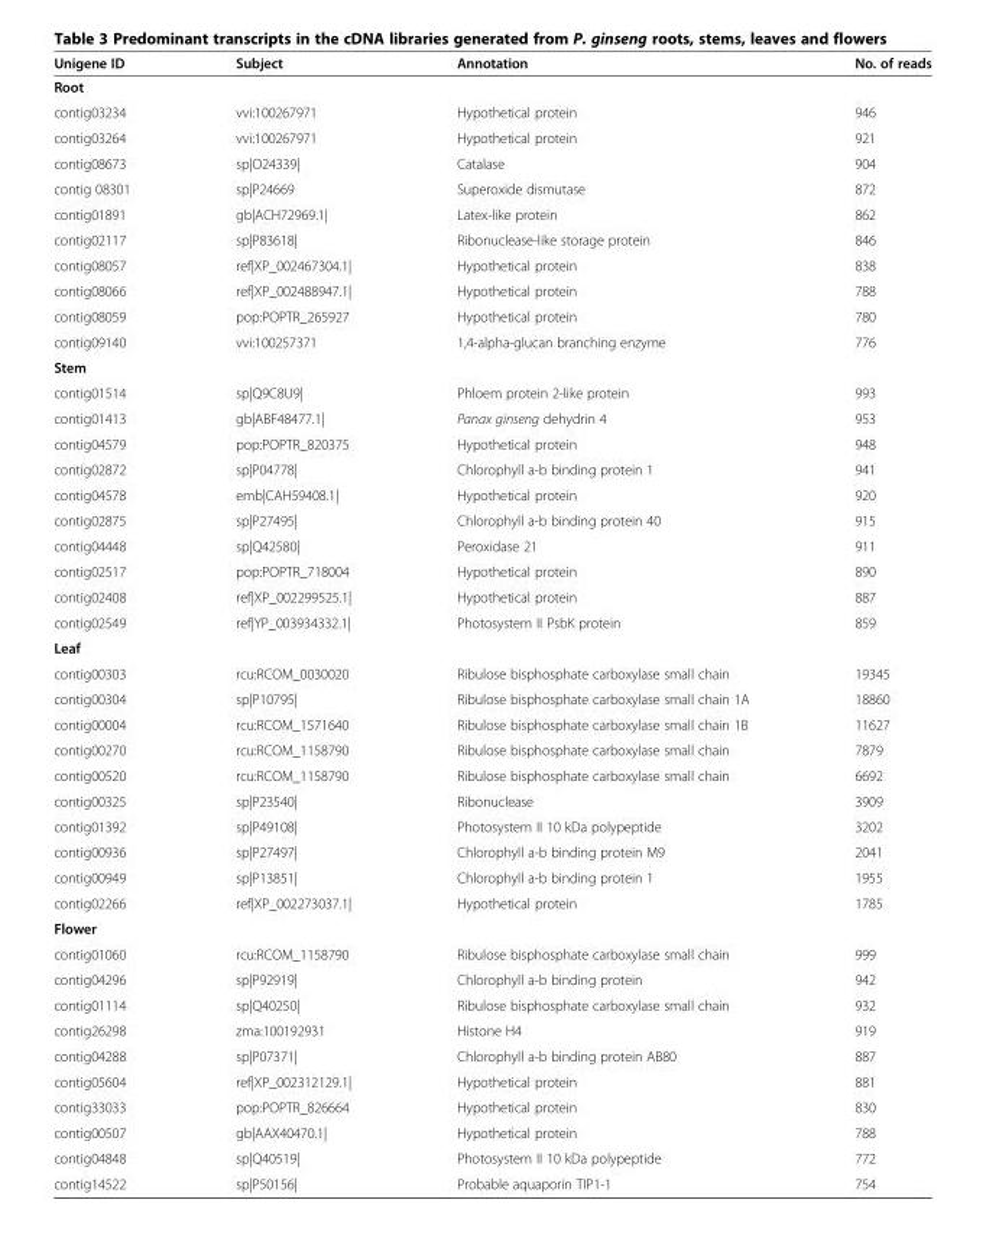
<table><thead><tr><td>Unigene ID</td><td>Subject</td><td>Annotation</td><td>No. of reads</td></tr></thead><tbody><tr><td colspan="4">Root</td></tr><tr><td>contig03234</td><td>vvi:100267971</td><td>Hypothetical protein</td><td>946</td></tr><tr><td>contig03264</td><td>vvi:100267971</td><td>Hypothetical protein</td><td>921</td></tr><tr><td>contig08673</td><td>sp|O24339|</td><td>Catalase</td><td>904</td></tr><tr><td>contig 08301</td><td>sp|P24669</td><td>Superoxide dismutase</td><td>872</td></tr><tr><td>contig01891</td><td>gb|ACH72969.1|</td><td>Latex-like protein</td><td>862</td></tr><tr><td>contig02117</td><td>sp|P83618|</td><td>Ribonuclease-like storage protein</td><td>846</td></tr><tr><td>contig08057</td><td>ref|XP_002467304.1|</td><td>Hypothetical protein</td><td>838</td></tr><tr><td>contig08066</td><td>ref|XP_002488947.1|</td><td>Hypothetical protein</td><td>788</td></tr><tr><td>contig08059</td><td>pop:POPTR_265927</td><td>Hypothetical protein</td><td>780</td></tr><tr><td>contig09140</td><td>vvi:100257371</td><td>1,4-alpha-glucan branching enzyme</td><td>776</td></tr><tr><td colspan="4">Stem</td></tr><tr><td>contig01514</td><td>sp|Q9C8U9|</td><td>Phloem protein 2-like protein</td><td>993</td></tr><tr><td>contig01413</td><td>gb|ABF48477.1|</td><td>Panax ginseng dehydrin 4</td><td>953</td></tr><tr><td>contig04579</td><td>pop:POPTR_820375</td><td>Hypothetical protein</td><td>948</td></tr><tr><td>contig02872</td><td>sp|P04778|</td><td>Chlorophyll a-b binding protein 1</td><td>941</td></tr><tr><td>contig04578</td><td>emb|CAH59408.1|</td><td>Hypothetical protein</td><td>920</td></tr><tr><td>contig02875</td><td>sp|P27495|</td><td>Chlorophyll a-b binding protein 40</td><td>915</td></tr><tr><td>contig04448</td><td>sp|Q42580|</td><td>Peroxidase 21</td><td>911</td></tr><tr><td>contig02517</td><td>pop:POPTR_718004</td><td>Hypothetical protein</td><td>890</td></tr><tr><td>contig02408</td><td>ref|XP_002299525.1|</td><td>Hypothetical protein</td><td>887</td></tr><tr><td>contig02549</td><td>ref|YP_003934332.1|</td><td>Photosystem II PsbK protein</td><td>859</td></tr><tr><td colspan="4">Leaf</td></tr><tr><td>contig00303</td><td>rcu:RCOM_0030020</td><td>Ribulose bisphosphate carboxylase small chain</td><td>19345</td></tr><tr><td>contig00304</td><td>sp|P10795|</td><td>Ribulose bisphosphate carboxylase small chain 1A</td><td>18860</td></tr><tr><td>contig00004</td><td>rcu:RCOM_1571640</td><td>Ribulose bisphosphate carboxylase small chain 1B</td><td>11627</td></tr><tr><td>contig00270</td><td>rcu:RCOM_1158790</td><td>Ribulose bisphosphate carboxylase small chain</td><td>7879</td></tr><tr><td>contig00520</td><td>rcu:RCOM_1158790</td><td>Ribulose bisphosphate carboxylase small chain</td><td>6692</td></tr><tr><td>contig00325</td><td>sp|P23540|</td><td>Ribonuclease</td><td>3909</td></tr><tr><td>contig01392</td><td>sp|P49108|</td><td>Photosystem II 10 kDa polypeptide</td><td>3202</td></tr><tr><td>contig00936</td><td>sp|P27497|</td><td>Chlorophyll a-b binding protein M9</td><td>2041</td></tr><tr><td>contig00949</td><td>sp|P13851|</td><td>Chlorophyll a-b binding protein 1</td><td>1955</td></tr><tr><td>contig02266</td><td>ref|XP_002273037.1|</td><td>Hypothetical protein</td><td>1785</td></tr><tr><td colspan="4">Flower</td></tr><tr><td>contig01060</td><td>rcu:RCOM_1158790</td><td>Ribulose bisphosphate carboxylase small chain</td><td>999</td></tr><tr><td>contig04296</td><td>sp|P92919|</td><td>Chlorophyll a-b binding protein</td><td>942</td></tr><tr><td>contig01114</td><td>sp|Q40250|</td><td>Ribulose bisphosphate carboxylase small chain</td><td>932</td></tr><tr><td>contig26298</td><td>zma:100192931</td><td>Histone H4</td><td>919</td></tr><tr><td>contig04288</td><td>sp|P07371|</td><td>Chlorophyll a-b binding protein AB80</td><td>887</td></tr><tr><td>contig05604</td><td>ref|XP_002312129.1|</td><td>Hypothetical protein</td><td>881</td></tr><tr><td>contig33033</td><td>pop:POPTR_826664</td><td>Hypothetical protein</td><td>830</td></tr><tr><td>contig00507</td><td>gb|AAX40470.1|</td><td>Hypothetical protein</td><td>788</td></tr><tr><td>contig04848</td><td>sp|Q40519|</td><td>Photosystem II 10 kDa polypeptide</td><td>772</td></tr><tr><td>contig14522</td><td>sp|P50156|</td><td>Probable aquaporin TIP1-1</td><td>754</td></tr></tbody></table>